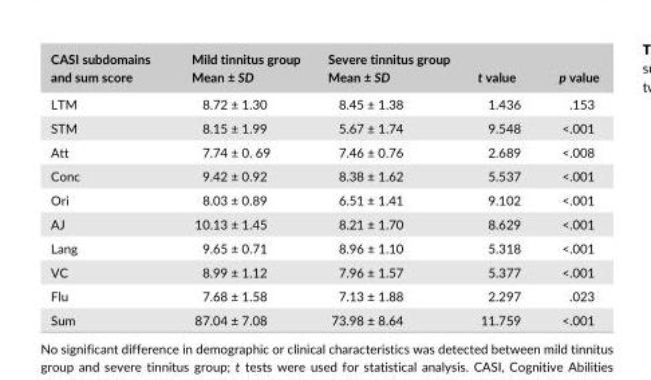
<table><thead><tr><td>CASI subdomains and sum score</td><td>Mild tinnitus group Mean ± SD</td><td>Severe tinnitus group Mean ± SD</td><td>t value</td><td>p value</td></tr></thead><tbody><tr><td>LTM</td><td>8.72 ± 1.30</td><td>8.45 ± 1.38</td><td>1.436</td><td>.153</td></tr><tr><td>STM</td><td>8.15 ± 1.99</td><td>5.67 ± 1.74</td><td>9.548</td><td>&lt;.001</td></tr><tr><td>Att</td><td>7.74 ± 0. 69</td><td>7.46 ± 0.76</td><td>2.689</td><td>&lt;.008</td></tr><tr><td>Conc</td><td>9.42 ± 0.92</td><td>8.38 ± 1.62</td><td>5.537</td><td>&lt;.001</td></tr><tr><td>Ori</td><td>8.03 ± 0.89</td><td>6.51 ± 1.41</td><td>9.102</td><td>&lt;.001</td></tr><tr><td>AJ</td><td>10.13 ± 1.45</td><td>8.21 ± 1.70</td><td>8.629</td><td>&lt;.001</td></tr><tr><td>Lang</td><td>9.65 ± 0.71</td><td>8.96 ± 1.10</td><td>5.318</td><td>&lt;.001</td></tr><tr><td>VC</td><td>8.99 ± 1.12</td><td>7.96 ± 1.57</td><td>5.377</td><td>&lt;.001</td></tr><tr><td>Flu</td><td>7.68 ± 1.58</td><td>7.13 ± 1.88</td><td>2.297</td><td>.023</td></tr><tr><td>Sum</td><td>87.04 ± 7.08</td><td>73.98 ± 8.64</td><td>11.759</td><td>&lt;.001</td></tr></tbody></table>